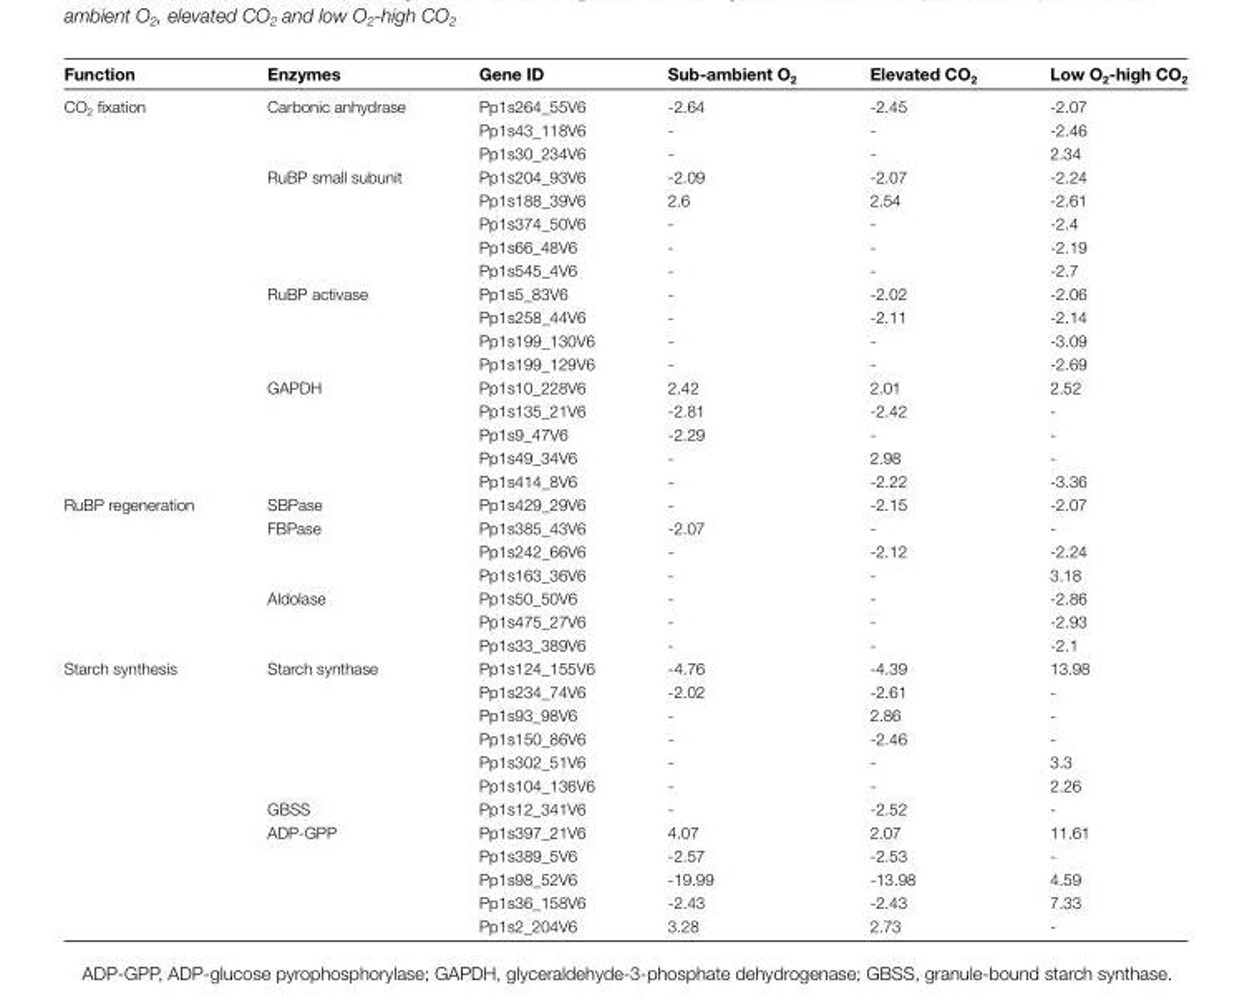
<table><thead><tr><td>Function</td><td>Enzymes</td><td>Gene ID</td><td>Sub-ambient O<sub>2</sub></td><td>Elevated CO<sub>2</sub></td><td>Low O<sub>2</sub>-high CO<sub>2</sub></td></tr></thead><tbody><tr><td rowspan="17">CO<sub>2</sub> fixation</td><td rowspan="3">Carbonic anhydrase</td><td>Pp1s264_55V6</td><td>-2.64</td><td>-2.45</td><td>-2.07</td></tr><tr><td>Pp1s43_118V6</td><td>-</td><td>-</td><td>-2.46</td></tr><tr><td>Pp1s30_234V6</td><td>-</td><td>-</td><td>2.34</td></tr><tr><td rowspan="5">RuBP small subunit</td><td>Pp1s204_93V6</td><td>-2.09</td><td>-2.07</td><td>-2.24</td></tr><tr><td>Pp1s188_39V6</td><td>2.6</td><td>2.54</td><td>-2.61</td></tr><tr><td>Pp1s374_50V6</td><td>-</td><td>-</td><td>-2.4</td></tr><tr><td>Pp1s66_48V6</td><td>-</td><td>-</td><td>-2.19</td></tr><tr><td>Pp1s545_4V6</td><td>-</td><td>-</td><td>-2.7</td></tr><tr><td rowspan="4">RuBP activase</td><td>Pp1s5_83V6</td><td>-</td><td>-2.02</td><td>-2.06</td></tr><tr><td>Pp1s258_44V6</td><td>-</td><td>-2.11</td><td>-2.14</td></tr><tr><td>Pp1s199_130V6</td><td>-</td><td>-</td><td>-3.09</td></tr><tr><td>Pp1s199_129V6</td><td>-</td><td>-</td><td>-2.69</td></tr><tr><td rowspan="5">GAPDH</td><td>Pp1s10_228V6</td><td>2.42</td><td>2.01</td><td>2.52</td></tr><tr><td>Pp1s135_21V6</td><td>-2.81</td><td>-2.42</td><td>-</td></tr><tr><td>Pp1s9_47V6</td><td>-2.29</td><td>-</td><td>-</td></tr><tr><td>Pp1s49_34V6</td><td>-</td><td>2.98</td><td>-</td></tr><tr><td>Pp1s414_8V6</td><td>-</td><td>-2.22</td><td>-3.36</td></tr><tr><td rowspan="7">RuBP regeneration</td><td>SBPase</td><td>Pp1s429_29V6</td><td>-</td><td>-2.15</td><td>-2.07</td></tr><tr><td>FBPase</td><td>Pp1s385_43V6</td><td>-2.07</td><td>-</td><td>-</td></tr><tr><td></td><td>Pp1s242_66V6</td><td>-</td><td>-2.12</td><td>-2.24</td></tr><tr><td></td><td>Pp1s163_36V6</td><td>-</td><td>-</td><td>3.18</td></tr><tr><td>Aldolase</td><td>Pp1s50_50V6</td><td>-</td><td>-</td><td>-2.86</td></tr><tr><td></td><td>Pp1s475_27V6</td><td>-</td><td>-</td><td>-2.93</td></tr><tr><td></td><td>Pp1s33_389V6</td><td>-</td><td>-</td><td>-2.1</td></tr><tr><td rowspan="12">Starch synthesis</td><td rowspan="6">Starch synthase</td><td>Pp1s124_155V6</td><td>-4.76</td><td>-4.39</td><td>13.98</td></tr><tr><td>Pp1s234_74V6</td><td>-2.02</td><td>-2.61</td><td>-</td></tr><tr><td>Pp1s93_98V6</td><td>-</td><td>2.86</td><td>-</td></tr><tr><td>Pp1s150_86V6</td><td>-</td><td>-2.46</td><td>-</td></tr><tr><td>Pp1s302_51V6</td><td>-</td><td>-</td><td>3.3</td></tr><tr><td>Pp1s104_136V6</td><td>-</td><td>-</td><td>2.26</td></tr><tr><td>GBSS</td><td>Pp1s12_341V6</td><td>-</td><td>-2.52</td><td>-</td></tr><tr><td rowspan="5">ADP-GPP</td><td>Pp1s397_21V6</td><td>4.07</td><td>2.07</td><td>11.61</td></tr><tr><td>Pp1s389_5V6</td><td>-2.57</td><td>-2.53</td><td>-</td></tr><tr><td>Pp1s98_52V6</td><td>-19.99</td><td>-13.98</td><td>4.59</td></tr><tr><td>Pp1s36_158V6</td><td>-2.43</td><td>-2.43</td><td>7.33</td></tr><tr><td>Pp1s2_204V6</td><td>3.28</td><td>2.73</td><td>-</td></tr></tbody></table>